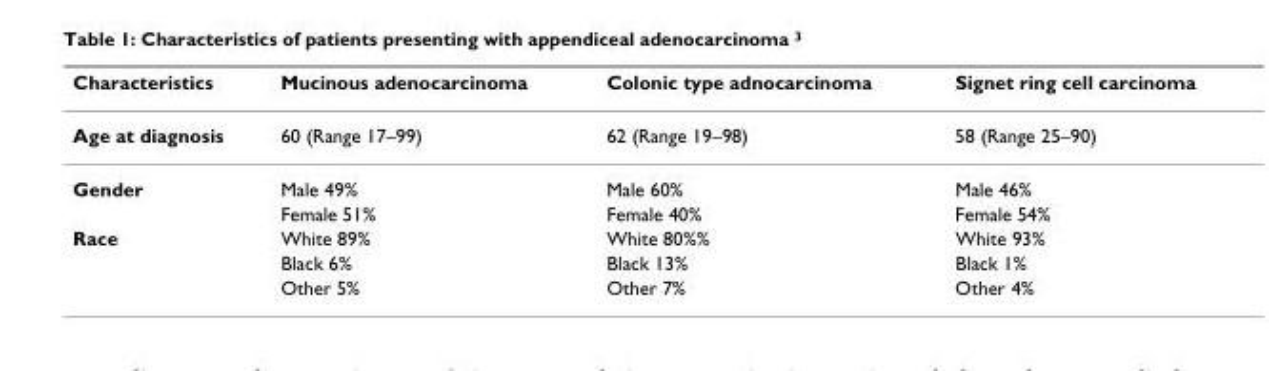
<table><thead><tr><td>Characteristics</td><td>Mucinous adenocarcinoma</td><td>Colonic type adnocarcinoma</td><td>Signet ring cell carcinoma</td></tr></thead><tbody><tr><td>Age at diagnosis</td><td>60 (Range 17–99)</td><td>62 (Range 19–98)</td><td>58 (Range 25–90)</td></tr><tr><td rowspan="2">Gender</td><td>Male 49%</td><td>Male 60%</td><td>Male 46%</td></tr><tr><td>Female 51%</td><td>Female 40%</td><td>Female 54%</td></tr><tr><td rowspan="3">Race</td><td>White 89%</td><td>White 80%%</td><td>White 93%</td></tr><tr><td>Black 6%</td><td>Black 13%</td><td>Black 1%</td></tr><tr><td>Other 5%</td><td>Other 7%</td><td>Other 4%</td></tr></tbody></table>